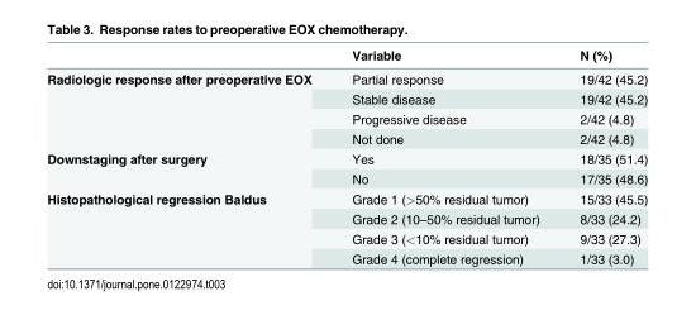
<table><thead><tr><td></td><td>Variable</td><td>N (%)</td></tr></thead><tbody><tr><td rowspan="4">Radiologic response after preoperative EOX</td><td>Partial response</td><td>19/42 (45.2)</td></tr><tr><td>Stable disease</td><td>19/42 (45.2)</td></tr><tr><td>Progressive disease</td><td>2/42 (4.8)</td></tr><tr><td>Not done</td><td>2/42 (4.8)</td></tr><tr><td rowspan="2">Downstaging after surgery</td><td>Yes</td><td>18/35 (51.4)</td></tr><tr><td>No</td><td>17/35 (48.6)</td></tr><tr><td rowspan="4">Histopathological regression Baldus</td><td>Grade 1 (&gt;50% residual tumor)</td><td>15/33 (45.5)</td></tr><tr><td>Grade 2 (10–50% residual tumor)</td><td>8/33 (24.2)</td></tr><tr><td>Grade 3 (&lt;10% residual tumor)</td><td>9/33 (27.3)</td></tr><tr><td>Grade 4 (complete regression)</td><td>1/33 (3.0)</td></tr></tbody></table>